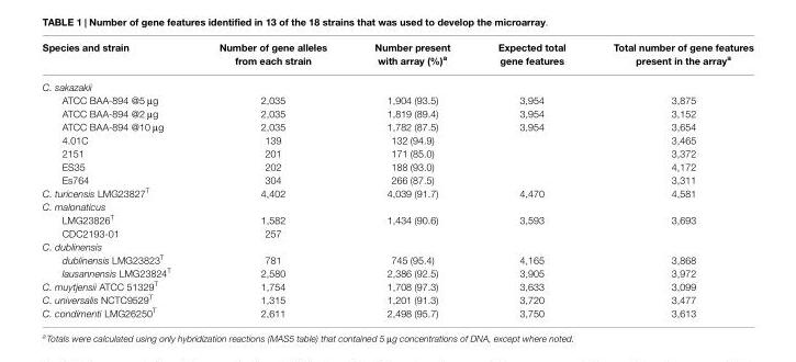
<table><thead><tr><td>Species and strain</td><td>Number of gene alleles from each strain</td><td>Number present with array (%)<sup>a</sup></td><td>Expected total gene features</td><td>Total number of gene features present in the array<sup>a</sup></td></tr></thead><tbody><tr><td colspan="5">C. sakazakii</td></tr><tr><td>ATCC BAA-894 @5 µg</td><td>2,035</td><td>1,904 (93.5)</td><td>3,954</td><td>3,875</td></tr><tr><td>ATCC BAA-894 @2 µg</td><td>2,035</td><td>1,819 (89.4)</td><td>3,954</td><td>3,152</td></tr><tr><td>ATCC BAA-894 @10 µg</td><td>2,035</td><td>1,782 (87.5)</td><td>3,954</td><td>3,654</td></tr><tr><td>4.01C</td><td>139</td><td>132 (94.9)</td><td></td><td>3,465</td></tr><tr><td>2151</td><td>201</td><td>171 (85.0)</td><td></td><td>3,372</td></tr><tr><td>ES35</td><td>202</td><td>188 (93.0)</td><td></td><td>4,172</td></tr><tr><td>Es764</td><td>304</td><td>266 (87.5)</td><td></td><td>3,311</td></tr><tr><td>C. turicensis LMG23827<sup>T</sup></td><td>4,402</td><td>4,039 (91.7)</td><td>4,470</td><td>4,581</td></tr><tr><td colspan="5">C. malonaticus</td></tr><tr><td>LMG23826<sup>T</sup></td><td>1,582</td><td>1,434 (90.6)</td><td>3,593</td><td>3,693</td></tr><tr><td>CDC2193-01</td><td>257</td><td></td><td></td><td></td></tr><tr><td colspan="5">C. dublinensis</td></tr><tr><td>dublinensis LMG23823<sup>T</sup></td><td>781</td><td>745 (95.4)</td><td>4,165</td><td>3,868</td></tr><tr><td>lausannensis LMG23824<sup>T</sup></td><td>2,580</td><td>2,386 (92.5)</td><td>3,905</td><td>3,972</td></tr><tr><td>C. muytjensii ATCC 51329<sup>T</sup></td><td>1,754</td><td>1,708 (97.3)</td><td>3,633</td><td>3,099</td></tr><tr><td>C. universalis NCTC9529<sup>T</sup></td><td>1,315</td><td>1,201 (91.3)</td><td>3,720</td><td>3,477</td></tr><tr><td>C. condimenti LMG26250<sup>T</sup></td><td>2,611</td><td>2,498 (95.7)</td><td>3,750</td><td>3,613</td></tr></tbody></table>